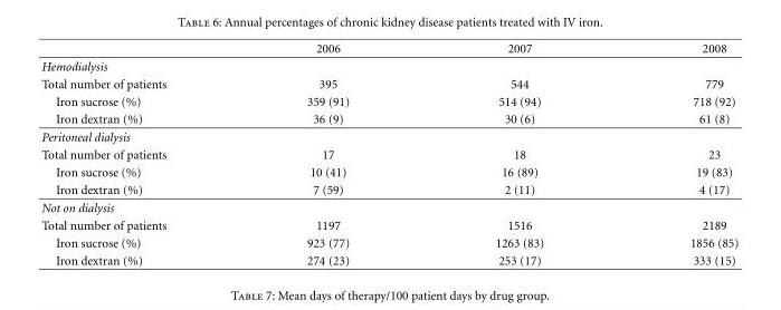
<table><thead><tr><td></td><td>2006</td><td>2007</td><td>2008</td></tr></thead><tbody><tr><td colspan="4">Hemodialysis</td></tr><tr><td>Total number of patients</td><td>395</td><td>544</td><td>779</td></tr><tr><td>Iron sucrose (%)</td><td>359 (91)</td><td>514 (94)</td><td>718 (92)</td></tr><tr><td>Iron dextran (%)</td><td>36 (9)</td><td>30 (6)</td><td>61 (8)</td></tr><tr><td colspan="4">Peritoneal dialysis</td></tr><tr><td>Total number of patients</td><td>17</td><td>18</td><td>23</td></tr><tr><td>Iron sucrose (%)</td><td>10 (41)</td><td>16 (89)</td><td>19 (83)</td></tr><tr><td>Iron dextran (%)</td><td>7 (59)</td><td>2 (11)</td><td>4 (17)</td></tr><tr><td colspan="4">Not on dialysis</td></tr><tr><td>Total number of patients</td><td>1197</td><td>1516</td><td>2189</td></tr><tr><td>Iron sucrose (%)</td><td>923 (77)</td><td>1263 (83)</td><td>1856 (85)</td></tr><tr><td>Iron dextran (%)</td><td>274 (23)</td><td>253 (17)</td><td>333 (15)</td></tr></tbody></table>